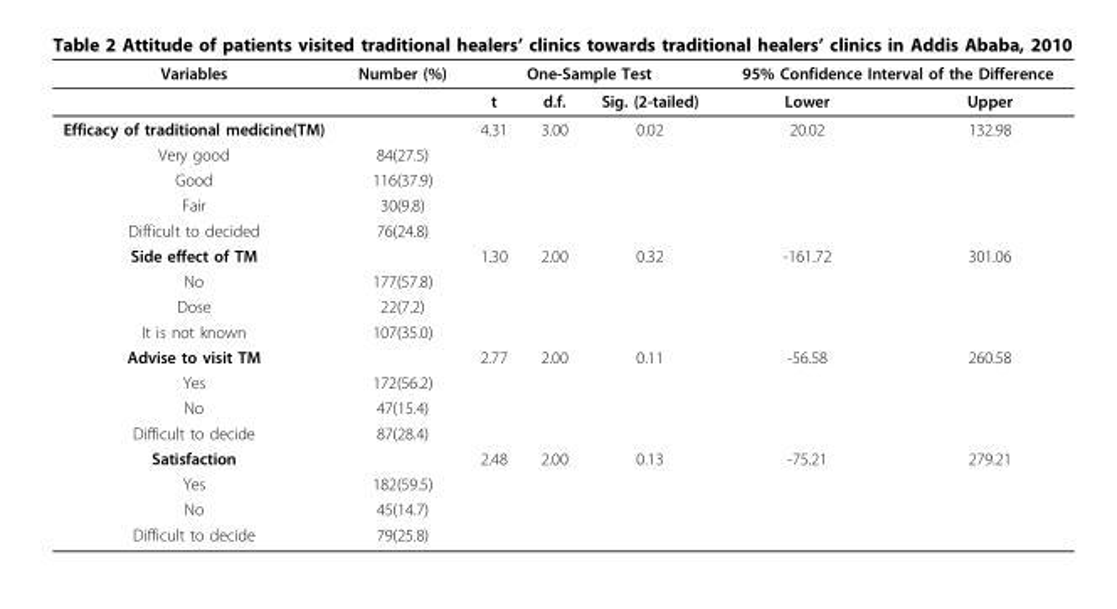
<table><thead><tr><td rowspan="2">Variables</td><td rowspan="2">Number (%)</td><td colspan="3">One-Sample Test</td><td colspan="2">95% Confidence Interval of the Difference</td></tr><tr><td>t</td><td>d.f.</td><td>Sig. (2-tailed)</td><td>Lower</td><td>Upper</td></tr></thead><tbody><tr><td>Efficacy of traditional medicine(TM)</td><td></td><td>4.31</td><td>3.00</td><td>0.02</td><td>20.02</td><td>132.98</td></tr><tr><td>Very good</td><td>84(27.5)</td><td></td><td></td><td></td><td></td><td></td></tr><tr><td>Good</td><td>116(37.9)</td><td></td><td></td><td></td><td></td><td></td></tr><tr><td>Fair</td><td>30(9.8)</td><td></td><td></td><td></td><td></td><td></td></tr><tr><td>Difficult to decided</td><td>76(24.8)</td><td></td><td></td><td></td><td></td><td></td></tr><tr><td>Side effect of TM</td><td></td><td>1.30</td><td>2.00</td><td>0.32</td><td>-161.72</td><td>301.06</td></tr><tr><td>No</td><td>177(57.8)</td><td></td><td></td><td></td><td></td><td></td></tr><tr><td>Dose</td><td>22(7.2)</td><td></td><td></td><td></td><td></td><td></td></tr><tr><td>It is not known</td><td>107(35.0)</td><td></td><td></td><td></td><td></td><td></td></tr><tr><td>Advise to visit TM</td><td></td><td>2.77</td><td>2.00</td><td>0.11</td><td>-56.58</td><td>260.58</td></tr><tr><td>Yes</td><td>172(56.2)</td><td></td><td></td><td></td><td></td><td></td></tr><tr><td>No</td><td>47(15.4)</td><td></td><td></td><td></td><td></td><td></td></tr><tr><td>Difficult to decide</td><td>87(28.4)</td><td></td><td></td><td></td><td></td><td></td></tr><tr><td>Satisfaction</td><td></td><td>2.48</td><td>2.00</td><td>0.13</td><td>-75.21</td><td>279.21</td></tr><tr><td>Yes</td><td>182(59.5)</td><td></td><td></td><td></td><td></td><td></td></tr><tr><td>No</td><td>45(14.7)</td><td></td><td></td><td></td><td></td><td></td></tr><tr><td>Difficult to decide</td><td>79(25.8)</td><td></td><td></td><td></td><td></td><td></td></tr></tbody></table>